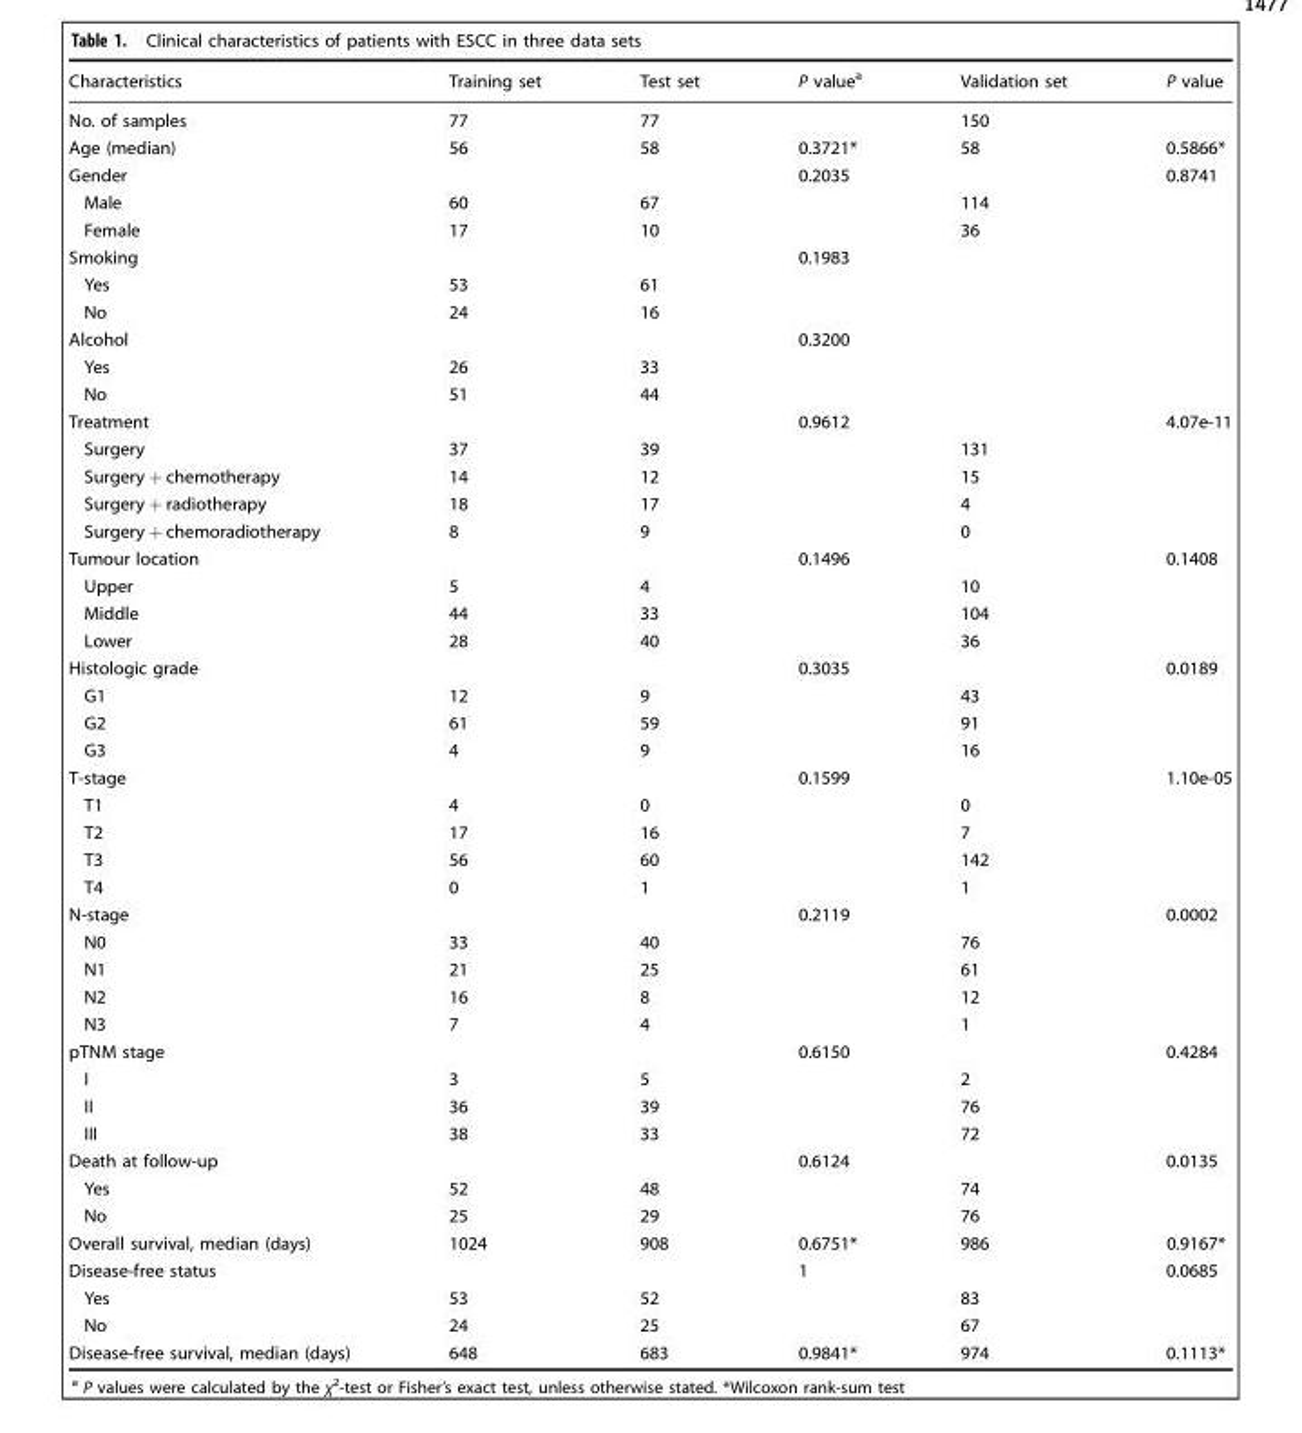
<table><thead><tr><td>Characteristics</td><td>Training set</td><td>Test set</td><td>P value<sup>a</sup></td><td>Validation set</td><td>P value</td></tr></thead><tbody><tr><td>No. of samples</td><td>77</td><td>77</td><td></td><td>150</td><td></td></tr><tr><td>Age (median)</td><td>56</td><td>58</td><td>0.3721*</td><td>58</td><td>0.5866*</td></tr><tr><td>Gender</td><td></td><td></td><td>0.2035</td><td></td><td>0.8741</td></tr><tr><td>Male</td><td>60</td><td>67</td><td></td><td>114</td><td></td></tr><tr><td>Female</td><td>17</td><td>10</td><td></td><td>36</td><td></td></tr><tr><td>Smoking</td><td></td><td></td><td>0.1983</td><td></td><td></td></tr><tr><td>Yes</td><td>53</td><td>61</td><td></td><td></td><td></td></tr><tr><td>No</td><td>24</td><td>16</td><td></td><td></td><td></td></tr><tr><td>Alcohol</td><td></td><td></td><td>0.3200</td><td></td><td></td></tr><tr><td>Yes</td><td>26</td><td>33</td><td></td><td></td><td></td></tr><tr><td>No</td><td>51</td><td>44</td><td></td><td></td><td></td></tr><tr><td>Treatment</td><td></td><td></td><td>0.9612</td><td></td><td>4.07e-11</td></tr><tr><td>Surgery</td><td>37</td><td>39</td><td></td><td>131</td><td></td></tr><tr><td>Surgery + chemotherapy</td><td>14</td><td>12</td><td></td><td>15</td><td></td></tr><tr><td>Surgery + radiotherapy</td><td>18</td><td>17</td><td></td><td>4</td><td></td></tr><tr><td>Surgery + chemoradiotherapy</td><td>8</td><td>9</td><td></td><td>0</td><td></td></tr><tr><td>Tumour location</td><td></td><td></td><td>0.1496</td><td></td><td>0.1408</td></tr><tr><td>Upper</td><td>5</td><td>4</td><td></td><td>10</td><td></td></tr><tr><td>Middle</td><td>44</td><td>33</td><td></td><td>104</td><td></td></tr><tr><td>Lower</td><td>28</td><td>40</td><td></td><td>36</td><td></td></tr><tr><td>Histologic grade</td><td></td><td></td><td>0.3035</td><td></td><td>0.0189</td></tr><tr><td>G1</td><td>12</td><td>9</td><td></td><td>43</td><td></td></tr><tr><td>G2</td><td>61</td><td>59</td><td></td><td>91</td><td></td></tr><tr><td>G3</td><td>4</td><td>9</td><td></td><td>16</td><td></td></tr><tr><td>T-stage</td><td></td><td></td><td>0.1599</td><td></td><td>1.10e-05</td></tr><tr><td>T1</td><td>4</td><td>0</td><td></td><td>0</td><td></td></tr><tr><td>T2</td><td>17</td><td>16</td><td></td><td>7</td><td></td></tr><tr><td>T3</td><td>56</td><td>60</td><td></td><td>142</td><td></td></tr><tr><td>T4</td><td>0</td><td>1</td><td></td><td>1</td><td></td></tr><tr><td>N-stage</td><td></td><td></td><td>0.2119</td><td></td><td>0.0002</td></tr><tr><td>N0</td><td>33</td><td>40</td><td></td><td>76</td><td></td></tr><tr><td>N1</td><td>21</td><td>25</td><td></td><td>61</td><td></td></tr><tr><td>N2</td><td>16</td><td>8</td><td></td><td>12</td><td></td></tr><tr><td>N3</td><td>7</td><td>4</td><td></td><td>1</td><td></td></tr><tr><td>pTNM stage</td><td></td><td></td><td>0.6150</td><td></td><td>0.4284</td></tr><tr><td>I</td><td>3</td><td>5</td><td></td><td>2</td><td></td></tr><tr><td>II</td><td>36</td><td>39</td><td></td><td>76</td><td></td></tr><tr><td>III</td><td>38</td><td>33</td><td></td><td>72</td><td></td></tr><tr><td>Death at follow-up</td><td></td><td></td><td>0.6124</td><td></td><td>0.0135</td></tr><tr><td>Yes</td><td>52</td><td>48</td><td></td><td>74</td><td></td></tr><tr><td>No</td><td>25</td><td>29</td><td></td><td>76</td><td></td></tr><tr><td>Overall survival, median (days)</td><td>1024</td><td>908</td><td>0.6751*</td><td>986</td><td>0.9167*</td></tr><tr><td>Disease-free status</td><td></td><td></td><td>1</td><td></td><td>0.0685</td></tr><tr><td>Yes</td><td>53</td><td>52</td><td></td><td>83</td><td></td></tr><tr><td>No</td><td>24</td><td>25</td><td></td><td>67</td><td></td></tr><tr><td>Disease-free survival, median (days)</td><td>648</td><td>683</td><td>0.9841*</td><td>974</td><td>0.1113*</td></tr></tbody></table>